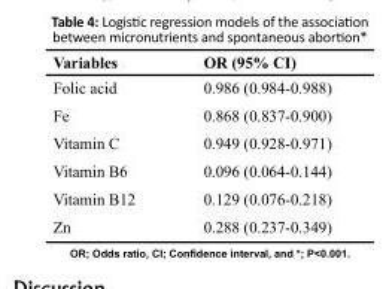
<table><thead><tr><td>Variables</td><td>OR (95% CI)</td></tr></thead><tbody><tr><td>Folic acid</td><td>0.986 (0.984-0.988)</td></tr><tr><td>Fe</td><td>0.868 (0.837-0.900)</td></tr><tr><td>Vitamin C</td><td>0.949 (0.928-0.971)</td></tr><tr><td>Vitamin B6</td><td>0.096 (0.064-0.144)</td></tr><tr><td>Vitamin B12</td><td>0.129 (0.076-0.218)</td></tr><tr><td>Zn</td><td>0.288 (0.237-0.349)</td></tr></tbody></table>